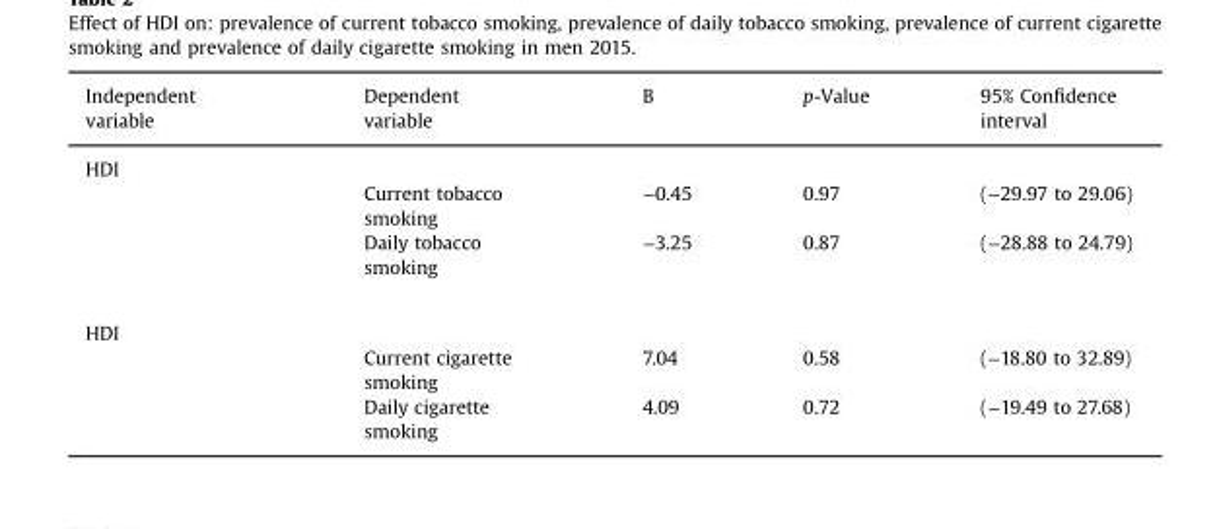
<table><thead><tr><td>Independent variable</td><td>Dependent variable</td><td>B</td><td>p-Value</td><td>95% Confidence interval</td></tr></thead><tbody><tr><td colspan="5">HDI</td></tr><tr><td></td><td>Current tobacco smoking</td><td>−0.45</td><td>0.97</td><td>(−29.97 to 29.06)</td></tr><tr><td></td><td>Daily tobacco smoking</td><td>−3.25</td><td>0.87</td><td>(−28.88 to 24.79)</td></tr><tr><td colspan="5">HDI</td></tr><tr><td></td><td>Current cigarette smoking</td><td>7.04</td><td>0.58</td><td>(−18.80 to 32.89)</td></tr><tr><td></td><td>Daily cigarette smoking</td><td>4.09</td><td>0.72</td><td>(−19.49 to 27.68)</td></tr></tbody></table>